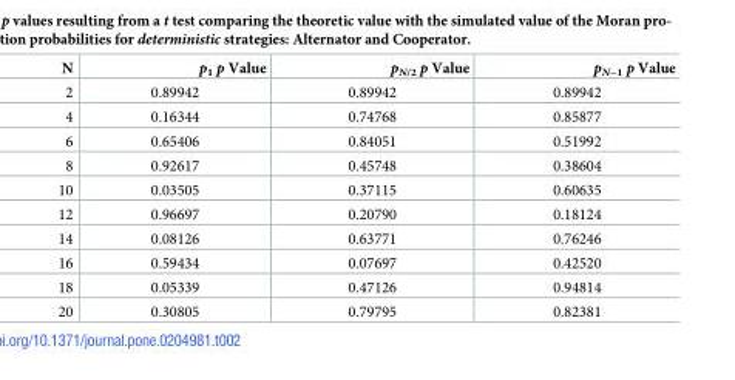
<table><thead><tr><td>N</td><td>p<sub>1</sub> p Value</td><td>p<sub>N/2</sub> p Value</td><td>p<sub>N−1</sub> p Value</td></tr></thead><tbody><tr><td>2</td><td>0.89942</td><td>0.89942</td><td>0.89942</td></tr><tr><td>4</td><td>0.16344</td><td>0.74768</td><td>0.85877</td></tr><tr><td>6</td><td>0.65406</td><td>0.84051</td><td>0.51992</td></tr><tr><td>8</td><td>0.92617</td><td>0.45748</td><td>0.38604</td></tr><tr><td>10</td><td>0.03505</td><td>0.37115</td><td>0.60635</td></tr><tr><td>12</td><td>0.96697</td><td>0.20790</td><td>0.18124</td></tr><tr><td>14</td><td>0.08126</td><td>0.63771</td><td>0.76246</td></tr><tr><td>16</td><td>0.59434</td><td>0.07697</td><td>0.42520</td></tr><tr><td>18</td><td>0.05339</td><td>0.47126</td><td>0.94814</td></tr><tr><td>20</td><td>0.30805</td><td>0.79795</td><td>0.82381</td></tr></tbody></table>